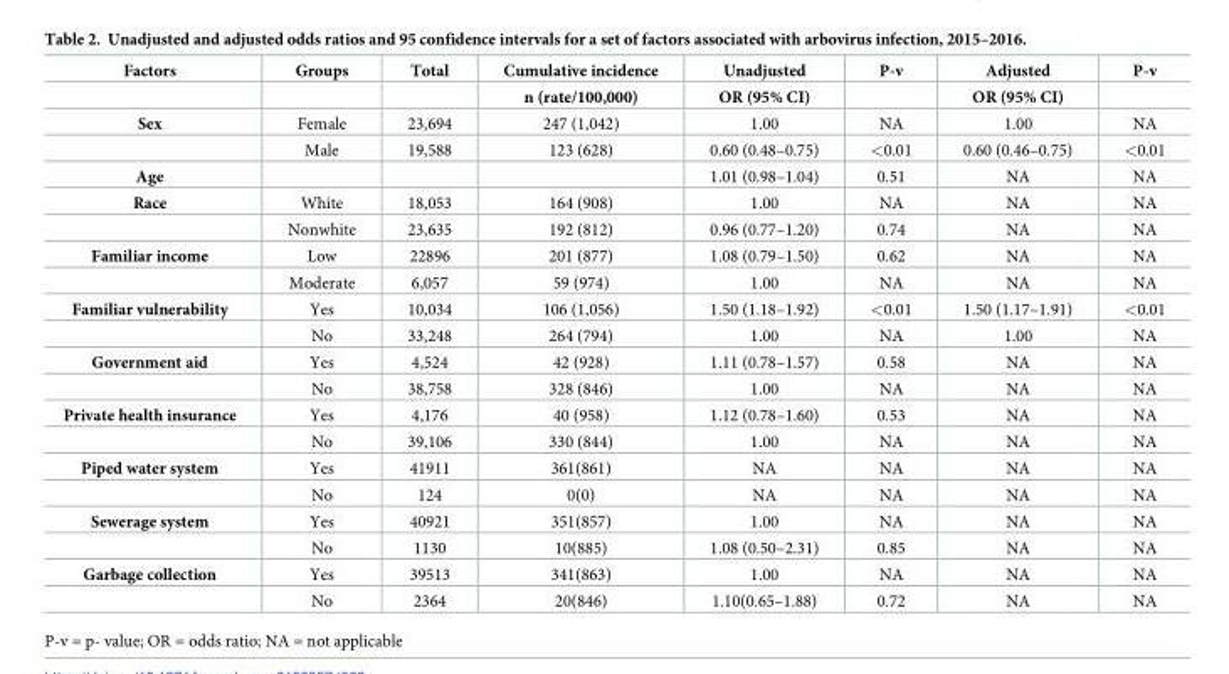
<table><thead><tr><td rowspan="2">Factors</td><td rowspan="2">Groups</td><td rowspan="2">Total</td><td rowspan="2">Cumulative incidence n (rate/100,000)</td><td rowspan="2">Unadjusted OR (95% CI)</td><td rowspan="2">P-v</td><td rowspan="2">Adjusted OR (95% CI)</td><td rowspan="2">P-v</td></tr><tr></tr></thead><tbody><tr><td rowspan="2">Sex</td><td>Female</td><td>23,694</td><td>247 (1,042)</td><td>1.00</td><td>NA</td><td>1.00</td><td>NA</td></tr><tr><td>Male</td><td>19,588</td><td>123 (628)</td><td>0.60 (0.48–0.75)</td><td>&lt;0.01</td><td>0.60 (0.46–0.75)</td><td>&lt;0.01</td></tr><tr><td>Age</td><td></td><td></td><td></td><td>1.01 (0.98–1.04)</td><td>0.51</td><td>NA</td><td>NA</td></tr><tr><td rowspan="2">Race</td><td>White</td><td>18,053</td><td>164 (908)</td><td>1.00</td><td>NA</td><td>NA</td><td>NA</td></tr><tr><td>Nonwhite</td><td>23,635</td><td>192 (812)</td><td>0.96 (0.77–1.20)</td><td>0.74</td><td>NA</td><td>NA</td></tr><tr><td rowspan="2">Familiar income</td><td>Low</td><td>22896</td><td>201 (877)</td><td>1.08 (0.79–1.50)</td><td>0.62</td><td>NA</td><td>NA</td></tr><tr><td>Moderate</td><td>6,057</td><td>59 (974)</td><td>1.00</td><td>NA</td><td>NA</td><td>NA</td></tr><tr><td rowspan="2">Familiar vulnerability</td><td>Yes</td><td>10,034</td><td>106 (1,056)</td><td>1.50 (1.18–1.92)</td><td>&lt;0.01</td><td>1.50 (1.17–1.91)</td><td>&lt;0.01</td></tr><tr><td>No</td><td>33,248</td><td>264 (794)</td><td>1.00</td><td>NA</td><td>1.00</td><td>NA</td></tr><tr><td rowspan="2">Government aid</td><td>Yes</td><td>4,524</td><td>42 (928)</td><td>1.11 (0.78–1.57)</td><td>0.58</td><td>NA</td><td>NA</td></tr><tr><td>No</td><td>38,758</td><td>328 (846)</td><td>1.00</td><td>NA</td><td>NA</td><td>NA</td></tr><tr><td rowspan="2">Private health insurance</td><td>Yes</td><td>4,176</td><td>40 (958)</td><td>1.12 (0.78–1.60)</td><td>0.53</td><td>NA</td><td>NA</td></tr><tr><td>No</td><td>39,106</td><td>330 (844)</td><td>1.00</td><td>NA</td><td>NA</td><td>NA</td></tr><tr><td rowspan="2">Piped water system</td><td>Yes</td><td>41911</td><td>361(861)</td><td>NA</td><td>NA</td><td>NA</td><td>NA</td></tr><tr><td>No</td><td>124</td><td>0(0)</td><td>NA</td><td>NA</td><td>NA</td><td>NA</td></tr><tr><td rowspan="2">Sewerage system</td><td>Yes</td><td>40921</td><td>351(857)</td><td>1.00</td><td>NA</td><td>NA</td><td>NA</td></tr><tr><td>No</td><td>1130</td><td>10(885)</td><td>1.08 (0.50–2.31)</td><td>0.85</td><td>NA</td><td>NA</td></tr><tr><td rowspan="2">Garbage collection</td><td>Yes</td><td>39513</td><td>341(863)</td><td>1.00</td><td>NA</td><td>NA</td><td>NA</td></tr><tr><td>No</td><td>2364</td><td>20(846)</td><td>1.10(0.65–1.88)</td><td>0.72</td><td>NA</td><td>NA</td></tr></tbody></table>